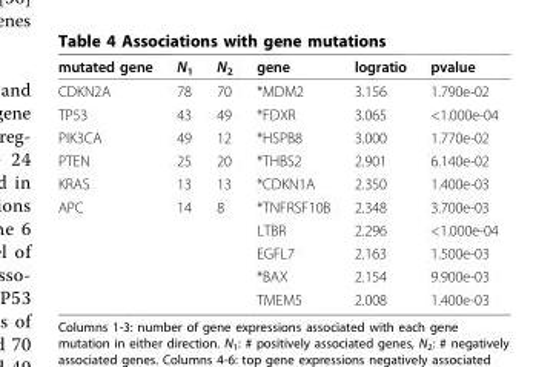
<table><thead><tr><td>mutated gene</td><td>N<sub>1</sub></td><td>N<sub>2</sub></td><td>gene</td><td>logratio</td><td>pvalue</td></tr></thead><tbody><tr><td>CDKN2A</td><td>78</td><td>70</td><td>*MDM2</td><td>3.156</td><td>1.790e-02</td></tr><tr><td>TP53</td><td>43</td><td>49</td><td>*FDXR</td><td>3.065</td><td>&lt;1.000e-04</td></tr><tr><td>PIK3CA</td><td>49</td><td>12</td><td>*HSPB8</td><td>3.000</td><td>1.770e-02</td></tr><tr><td>PTEN</td><td>25</td><td>20</td><td>*THBS2</td><td>2.901</td><td>6.140e-02</td></tr><tr><td>KRAS</td><td>13</td><td>13</td><td>*CDKN1A</td><td>2.350</td><td>1.400e-03</td></tr><tr><td rowspan="5">APC</td><td>14</td><td>8</td><td>*TNFRSF10B</td><td>2.348</td><td>3.700e-03</td></tr><tr><td></td><td></td><td>LTBR</td><td>2.296</td><td>&lt;1.000e-04</td></tr><tr><td></td><td></td><td>EGFL7</td><td>2.163</td><td>1.500e-03</td></tr><tr><td></td><td></td><td>*BAX</td><td>2.154</td><td>9.900e-03</td></tr><tr><td></td><td></td><td>TMEM5</td><td>2.008</td><td>1.400e-03</td></tr></tbody></table>